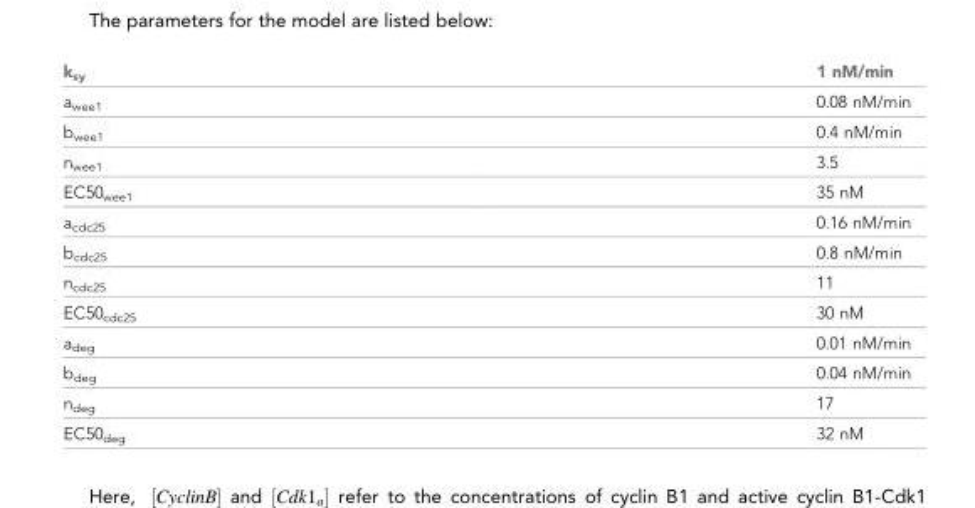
<table><thead><tr><td>k<sub>sy</sub></td><td>1 nM/min</td></tr></thead><tbody><tr><td>a<sub>wee1</sub></td><td>0.08 nM/min</td></tr><tr><td>b<sub>wee1</sub></td><td>0.4 nM/min</td></tr><tr><td>n<sub>wee1</sub></td><td>3.5</td></tr><tr><td>EC50<sub>wee1</sub></td><td>35 nM</td></tr><tr><td>a<sub>cdc25</sub></td><td>0.16 nM/min</td></tr><tr><td>b<sub>cdc25</sub></td><td>0.8 nM/min</td></tr><tr><td>n<sub>cdc25</sub></td><td>11</td></tr><tr><td>EC50<sub>cdc25</sub></td><td>30 nM</td></tr><tr><td>a<sub>deg</sub></td><td>0.01 nM/min</td></tr><tr><td>b<sub>deg</sub></td><td>0.04 nM/min</td></tr><tr><td>n<sub>deg</sub></td><td>17</td></tr><tr><td>EC50<sub>deg</sub></td><td>32 nM</td></tr></tbody></table>